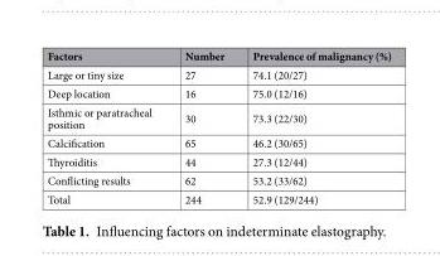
<table><thead><tr><td>Factors</td><td>Number</td><td>Prevalence of malignancy (%)</td></tr></thead><tbody><tr><td>Large or tiny size</td><td>27</td><td>74.1 (20/27)</td></tr><tr><td>Deep location</td><td>16</td><td>75.0 (12/16)</td></tr><tr><td>Isthmic or paratracheal position</td><td>30</td><td>73.3 (22/30)</td></tr><tr><td>Calcification</td><td>65</td><td>46.2 (30/65)</td></tr><tr><td>Thyroiditis</td><td>44</td><td>27.3 (12/44)</td></tr><tr><td>Conflicting results</td><td>62</td><td>53.2 (33/62)</td></tr><tr><td>Total</td><td>244</td><td>52.9 (129/244)</td></tr></tbody></table>